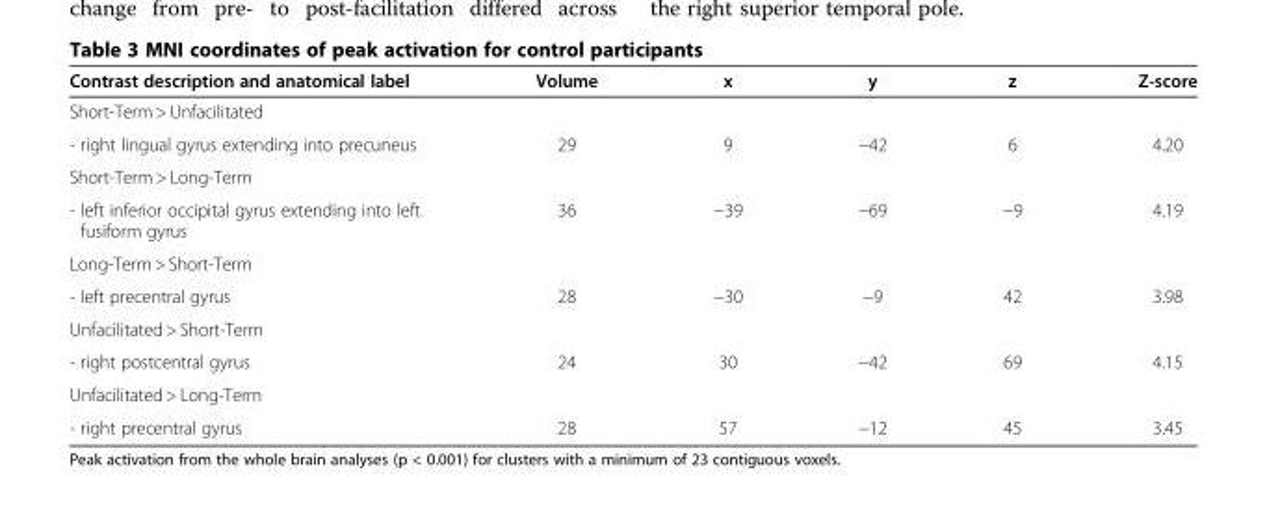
<table><thead><tr><td>Contrast description and anatomical label</td><td>Volume</td><td>x</td><td>y</td><td>z</td><td>Z-score</td></tr></thead><tbody><tr><td colspan="6">Short-Term &gt; Unfacilitated</td></tr><tr><td>- right lingual gyrus extending into precuneus</td><td>29</td><td>9</td><td>−42</td><td>6</td><td>4.20</td></tr><tr><td colspan="6">Short-Term &gt; Long-Term</td></tr><tr><td>- left inferior occipital gyrus extending into left fusiform gyrus</td><td>36</td><td>−39</td><td>−69</td><td>−9</td><td>4.19</td></tr><tr><td colspan="6">Long-Term &gt; Short-Term</td></tr><tr><td>- left precentral gyrus</td><td>28</td><td>−30</td><td>−9</td><td>42</td><td>3.98</td></tr><tr><td colspan="6">Unfacilitated &gt; Short-Term</td></tr><tr><td>- right postcentral gyrus</td><td>24</td><td>30</td><td>−42</td><td>69</td><td>4.15</td></tr><tr><td colspan="6">Unfacilitated &gt; Long-Term</td></tr><tr><td>- right precentral gyrus</td><td>28</td><td>57</td><td>−12</td><td>45</td><td>3.45</td></tr></tbody></table>